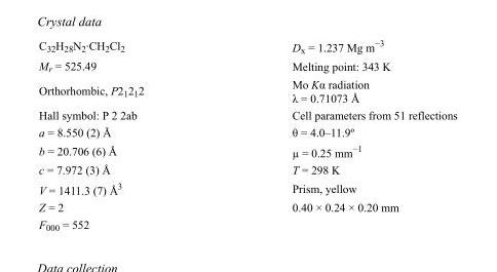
<table><tbody><tr><td>C<sub>32</sub>H<sub>28</sub>N<sub>2</sub>·CH<sub>2</sub>Cl<sub>2</sub></td><td>D<sub>x</sub> = 1.237 Mg m<sup>−3</sup></td></tr><tr><td>M<sub>r</sub> = 525.49</td><td>Melting point: 343 K</td></tr><tr><td>Orthorhombic, P2<sub>1</sub>2<sub>1</sub>2</td><td>Mo Kα radiation λ = 0.71073 Å</td></tr><tr><td>Hall symbol: P 2 2ab</td><td>Cell parameters from 51 reflections</td></tr><tr><td>a = 8.550 (2) Å</td><td>θ = 4.0–11.9º</td></tr><tr><td>b = 20.706 (6) Å</td><td>µ = 0.25 mm<sup>−1</sup></td></tr><tr><td>c = 7.972 (3) Å</td><td>T = 298 K</td></tr><tr><td>V = 1411.3 (7) Å<sup>3</sup></td><td>Prism, yellow</td></tr><tr><td>Z = 2</td><td>0.40 × 0.24 × 0.20 mm</td></tr><tr><td>F000 = 552</td><td></td></tr></tbody></table>